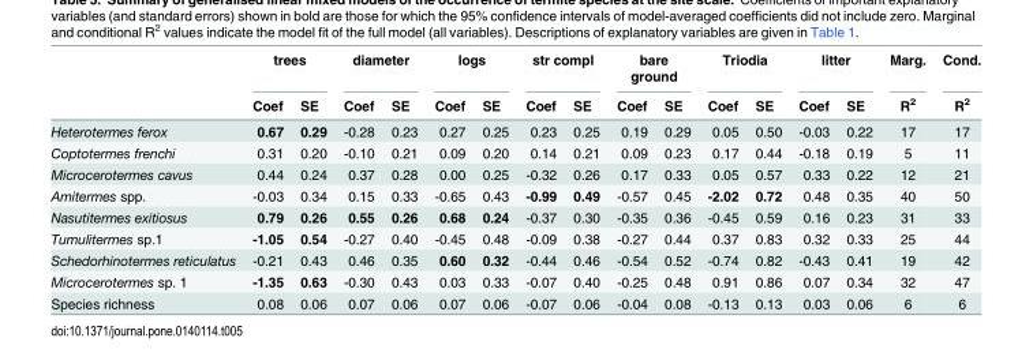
<table><thead><tr><td rowspan="2"></td><td colspan="2">trees</td><td colspan="2">diameter</td><td colspan="2">logs</td><td colspan="2">str compl</td><td colspan="2">bare ground</td><td colspan="2">Triodia</td><td colspan="2">litter</td><td rowspan="2">Marg. R<sup>2</sup></td><td rowspan="2">Cond. R<sup>2</sup></td></tr><tr><td>Coef</td><td>SE</td><td>Coef</td><td>SE</td><td>Coef</td><td>SE</td><td>Coef</td><td>SE</td><td>Coef</td><td>SE</td><td>Coef</td><td>SE</td><td>Coef</td><td>SE</td></tr></thead><tbody><tr><td>Heterotermes ferox</td><td>0.67</td><td>0.29</td><td>-0.28</td><td>0.23</td><td>0.27</td><td>0.25</td><td>0.23</td><td>0.25</td><td>0.19</td><td>0.29</td><td>0.05</td><td>0.50</td><td>-0.03</td><td>0.22</td><td>17</td><td>17</td></tr><tr><td>Coptotermes frenchi</td><td>0.31</td><td>0.20</td><td>-0.10</td><td>0.21</td><td>0.09</td><td>0.20</td><td>0.14</td><td>0.21</td><td>0.09</td><td>0.23</td><td>0.17</td><td>0.44</td><td>-0.18</td><td>0.19</td><td>5</td><td>11</td></tr><tr><td>Microcerotermes cavus</td><td>0.44</td><td>0.24</td><td>0.37</td><td>0.28</td><td>0.00</td><td>0.25</td><td>-0.32</td><td>0.26</td><td>0.17</td><td>0.33</td><td>0.05</td><td>0.57</td><td>0.33</td><td>0.22</td><td>12</td><td>21</td></tr><tr><td>Amitermes spp.</td><td>-0.03</td><td>0.34</td><td>0.15</td><td>0.33</td><td>-0.65</td><td>0.43</td><td>-0.99</td><td>0.49</td><td>-0.57</td><td>0.45</td><td>-2.02</td><td>0.72</td><td>0.48</td><td>0.35</td><td>40</td><td>50</td></tr><tr><td>Nasutitermes exitiosus</td><td>0.79</td><td>0.26</td><td>0.55</td><td>0.26</td><td>0.68</td><td>0.24</td><td>-0.37</td><td>0.30</td><td>-0.35</td><td>0.36</td><td>-0.45</td><td>0.59</td><td>0.16</td><td>0.23</td><td>31</td><td>33</td></tr><tr><td>Tumulitermes sp.1</td><td>-1.05</td><td>0.54</td><td>-0.27</td><td>0.40</td><td>-0.45</td><td>0.48</td><td>-0.09</td><td>0.38</td><td>-0.27</td><td>0.44</td><td>0.37</td><td>0.83</td><td>0.32</td><td>0.33</td><td>25</td><td>44</td></tr><tr><td>Schedorhinotermes reticulatus</td><td>-0.21</td><td>0.43</td><td>0.46</td><td>0.35</td><td>0.60</td><td>0.32</td><td>-0.44</td><td>0.46</td><td>-0.54</td><td>0.52</td><td>-0.74</td><td>0.82</td><td>-0.43</td><td>0.41</td><td>19</td><td>42</td></tr><tr><td>Microcerotermes sp. 1</td><td>-1.35</td><td>0.63</td><td>-0.30</td><td>0.43</td><td>0.03</td><td>0.33</td><td>-0.07</td><td>0.40</td><td>-0.25</td><td>0.48</td><td>0.91</td><td>0.86</td><td>0.07</td><td>0.34</td><td>32</td><td>47</td></tr><tr><td>Species richness</td><td>0.08</td><td>0.06</td><td>0.07</td><td>0.06</td><td>0.07</td><td>0.06</td><td>-0.07</td><td>0.06</td><td>-0.04</td><td>0.08</td><td>-0.13</td><td>0.13</td><td>0.03</td><td>0.06</td><td>6</td><td>6</td></tr></tbody></table>